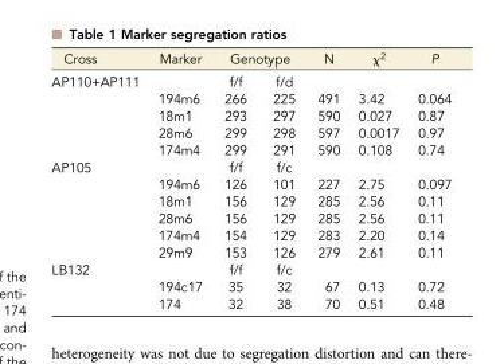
<table><thead><tr><td rowspan="2">Cross AP110+AP111</td><td rowspan="2">Marker</td><td colspan="2">Genotype</td><td rowspan="2">N</td><td rowspan="2">χ<sup>2</sup></td><td rowspan="2">P</td></tr><tr><td>f/f</td><td>f/d</td></tr></thead><tbody><tr><td></td><td>194m6</td><td>266</td><td>225</td><td>491</td><td>3.42</td><td>0.064</td></tr><tr><td></td><td>18m1</td><td>293</td><td>297</td><td>590</td><td>0.027</td><td>0.87</td></tr><tr><td></td><td>28m6</td><td>299</td><td>298</td><td>597</td><td>0.0017</td><td>0.97</td></tr><tr><td></td><td>174m4</td><td>299</td><td>291</td><td>590</td><td>0.108</td><td>0.74</td></tr><tr><td rowspan="6">AP105</td><td></td><td>f/f</td><td>f/c</td><td></td><td></td><td></td></tr><tr><td>194m6</td><td>126</td><td>101</td><td>227</td><td>2.75</td><td>0.097</td></tr><tr><td>18m1</td><td>156</td><td>129</td><td>285</td><td>2.56</td><td>0.11</td></tr><tr><td>28m6</td><td>156</td><td>129</td><td>285</td><td>2.56</td><td>0.11</td></tr><tr><td>174m4</td><td>154</td><td>129</td><td>283</td><td>2.20</td><td>0.14</td></tr><tr><td>29m9</td><td>153</td><td>126</td><td>279</td><td>2.61</td><td>0.11</td></tr><tr><td rowspan="3">LB132</td><td></td><td>f/f</td><td>f/c</td><td></td><td></td><td></td></tr><tr><td>194c17</td><td>35</td><td>32</td><td>67</td><td>0.13</td><td>0.72</td></tr><tr><td>174</td><td>32</td><td>38</td><td>70</td><td>0.51</td><td>0.48</td></tr></tbody></table>